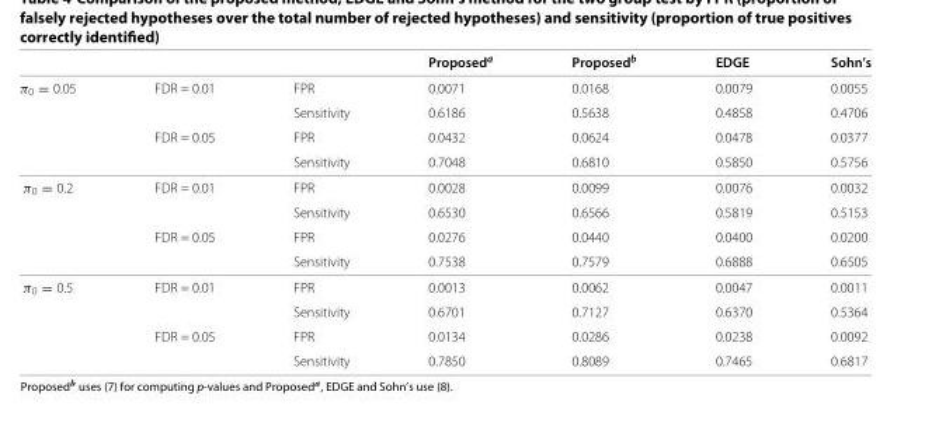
<table><thead><tr><td></td><td></td><td></td><td>Proposed<sup>a</sup></td><td>Proposed<sup>b</sup></td><td>EDGE</td><td>Sohn’s</td></tr></thead><tbody><tr><td rowspan="4">0.05</td><td>FDR = 0.01</td><td>FPR</td><td>0.0071</td><td>0.0168</td><td>0.0079</td><td>0.0055</td></tr><tr><td></td><td>Sensitivity</td><td>0.6186</td><td>0.5638</td><td>0.4858</td><td>0.4706</td></tr><tr><td>FDR = 0.05</td><td>FPR</td><td>0.0432</td><td>0.0624</td><td>0.0478</td><td>0.0377</td></tr><tr><td></td><td>Sensitivity</td><td>0.7048</td><td>0.6810</td><td>0.5850</td><td>0.5756</td></tr><tr><td rowspan="4">0.2</td><td>FDR = 0.01</td><td>FPR</td><td>0.0028</td><td>0.0099</td><td>0.0076</td><td>0.0032</td></tr><tr><td></td><td>Sensitivity</td><td>0.6530</td><td>0.6566</td><td>0.5819</td><td>0.5153</td></tr><tr><td>FDR = 0.05</td><td>FPR</td><td>0.0276</td><td>0.0440</td><td>0.0400</td><td>0.0200</td></tr><tr><td></td><td>Sensitivity</td><td>0.7538</td><td>0.7579</td><td>0.6888</td><td>0.6505</td></tr><tr><td rowspan="4">0.5</td><td>FDR = 0.01</td><td>FPR</td><td>0.0013</td><td>0.0062</td><td>0.0047</td><td>0.0011</td></tr><tr><td></td><td>Sensitivity</td><td>0.6701</td><td>0.7127</td><td>0.6370</td><td>0.5364</td></tr><tr><td>FDR = 0.05</td><td>FPR</td><td>0.0134</td><td>0.0286</td><td>0.0238</td><td>0.0092</td></tr><tr><td></td><td>Sensitivity</td><td>0.7850</td><td>0.8089</td><td>0.7465</td><td>0.6817</td></tr></tbody></table>